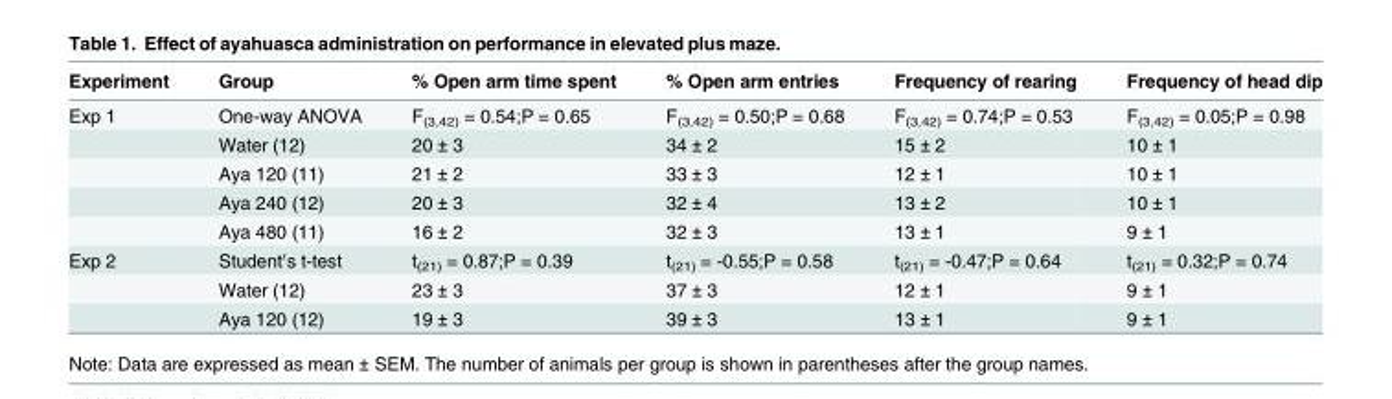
<table><thead><tr><td>Experiment</td><td>Group</td><td>% Open arm time spent</td><td>% Open arm entries</td><td>Frequency of rearing</td><td>Frequency of head dip</td></tr></thead><tbody><tr><td rowspan="5">Exp 1</td><td>One-way ANOVA</td><td>F<sub>(3,42)</sub> = 0.54;P = 0.65</td><td>F<sub>(3,42)</sub> = 0.50;P = 0.68</td><td>F<sub>(3,42)</sub> = 0.74;P = 0.53</td><td>F<sub>(3,42)</sub> = 0.05;P = 0.98</td></tr><tr><td>Water (12)</td><td>20 ± 3</td><td>34 ± 2</td><td>15 ± 2</td><td>10 ± 1</td></tr><tr><td>Aya 120 (11)</td><td>21 ± 2</td><td>33 ± 3</td><td>12 ± 1</td><td>10 ± 1</td></tr><tr><td>Aya 240 (12)</td><td>20 ± 3</td><td>32 ± 4</td><td>13 ± 2</td><td>10 ± 1</td></tr><tr><td>Aya 480 (11)</td><td>16 ± 2</td><td>32 ± 3</td><td>13 ± 1</td><td>9 ± 1</td></tr><tr><td rowspan="3">Exp 2</td><td>Student′s t-test</td><td>t<sub>(21)</sub> = 0.87;P = 0.39</td><td>t<sub>(21)</sub> = -0.55;P = 0.58</td><td>t<sub>(21)</sub> = -0.47;P = 0.64</td><td>t<sub>(21)</sub> = 0.32;P = 0.74</td></tr><tr><td>Water (12)</td><td>23 ± 3</td><td>37 ± 3</td><td>12 ± 1</td><td>9 ± 1</td></tr><tr><td>Aya 120 (12)</td><td>19 ± 3</td><td>39 ± 3</td><td>13 ± 1</td><td>9 ± 1</td></tr></tbody></table>